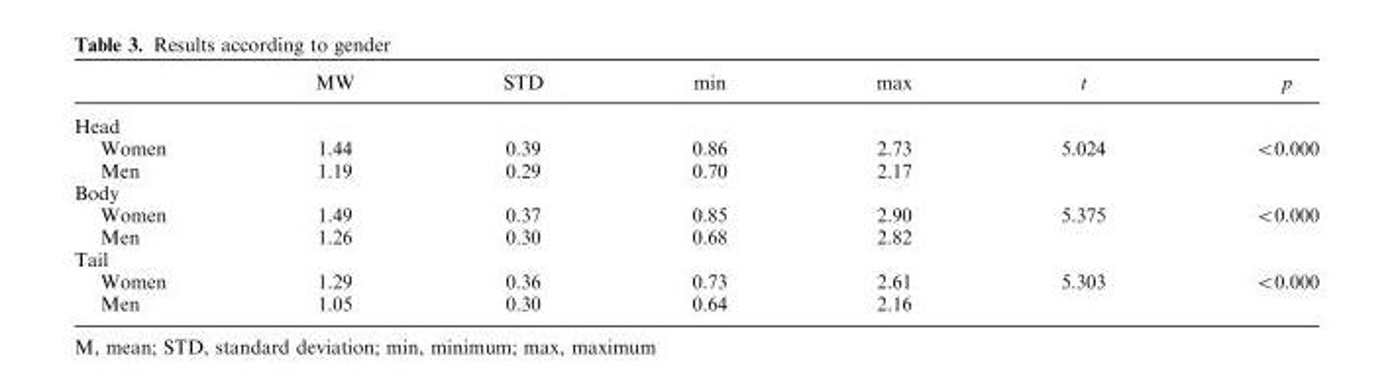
<table><thead><tr><td></td><td>MW</td><td>STD</td><td>min</td><td>max</td><td>t</td><td>p</td></tr></thead><tbody><tr><td colspan="7">Head</td></tr><tr><td>Women</td><td>1.44</td><td>0.39</td><td>0.86</td><td>2.73</td><td rowspan="2">5.024</td><td rowspan="2">&lt;0.000</td></tr><tr><td>Men</td><td>1.19</td><td>0.29</td><td>0.70</td><td>2.17</td></tr><tr><td colspan="7">Body</td></tr><tr><td>Women</td><td>1.49</td><td>0.37</td><td>0.85</td><td>2.90</td><td rowspan="2">5.375</td><td rowspan="2">&lt;0.000</td></tr><tr><td>Men</td><td>1.26</td><td>0.30</td><td>0.68</td><td>2.82</td></tr><tr><td colspan="7">Tail</td></tr><tr><td>Women</td><td>1.29</td><td>0.36</td><td>0.73</td><td>2.61</td><td rowspan="2">5.303</td><td rowspan="2">&lt;0.000</td></tr><tr><td>Men</td><td>1.05</td><td>0.30</td><td>0.64</td><td>2.16</td></tr></tbody></table>